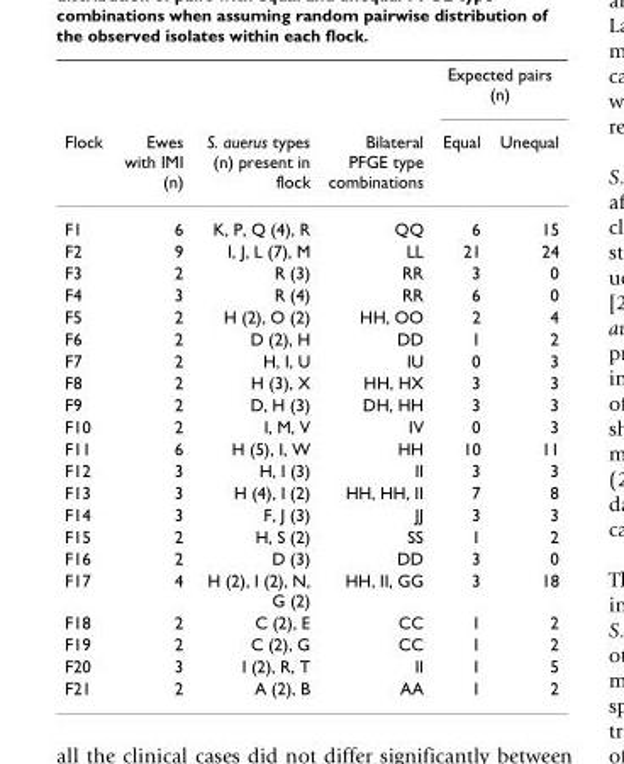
<table><thead><tr><td rowspan="2">Flock</td><td rowspan="2">Ewes with IMI (n)</td><td rowspan="2">S. auerus types (n) present in flock</td><td rowspan="2">Bilateral PFGE type combinations</td><td colspan="2">Expected pairs (n)</td></tr><tr><td>Equal</td><td>Unequal</td></tr></thead><tbody><tr><td>F1</td><td>6</td><td>K, P, Q (4), R</td><td>QQ</td><td>6</td><td>15</td></tr><tr><td>F2</td><td>9</td><td>I, J, L (7), M</td><td>LL</td><td>21</td><td>24</td></tr><tr><td>F3</td><td>2</td><td>R (3)</td><td>RR</td><td>3</td><td>0</td></tr><tr><td>F4</td><td>3</td><td>R (4)</td><td>RR</td><td>6</td><td>0</td></tr><tr><td>F5</td><td>2</td><td>H (2), O (2)</td><td>HH, OO</td><td>2</td><td>4</td></tr><tr><td>F6</td><td>2</td><td>D (2), H</td><td>DD</td><td>1</td><td>2</td></tr><tr><td>F7</td><td>2</td><td>H, I, U</td><td>IU</td><td>0</td><td>3</td></tr><tr><td>F8</td><td>2</td><td>H (3), X</td><td>HH, HX</td><td>3</td><td>3</td></tr><tr><td>F9</td><td>2</td><td>D, H (3)</td><td>DH, HH</td><td>3</td><td>3</td></tr><tr><td>F10</td><td>2</td><td>I, M, V</td><td>IV</td><td>0</td><td>3</td></tr><tr><td>F11</td><td>6</td><td>H (5), I, W</td><td>HH</td><td>10</td><td>11</td></tr><tr><td>F12</td><td>3</td><td>H, I (3)</td><td>II</td><td>3</td><td>3</td></tr><tr><td>F13</td><td>3</td><td>H (4), I (2)</td><td>HH, HH, II</td><td>7</td><td>8</td></tr><tr><td>F14</td><td>3</td><td>F, J (3)</td><td>JJ</td><td>3</td><td>3</td></tr><tr><td>F15</td><td>2</td><td>H, S (2)</td><td>SS</td><td>1</td><td>2</td></tr><tr><td>F16</td><td>2</td><td>D (3)</td><td>DD</td><td>3</td><td>0</td></tr><tr><td>F17</td><td>4</td><td>H (2), I (2), N, G (2)</td><td>HH, II, GG</td><td>3</td><td>18</td></tr><tr><td>F18</td><td>2</td><td>C (2), E</td><td>CC</td><td>1</td><td>2</td></tr><tr><td>F19</td><td>2</td><td>C (2), G</td><td>CC</td><td>1</td><td>2</td></tr><tr><td>F20</td><td>3</td><td>I (2), R, T</td><td>II</td><td>1</td><td>5</td></tr><tr><td>F21</td><td>2</td><td>A (2), B</td><td>AA</td><td>1</td><td>2</td></tr></tbody></table>